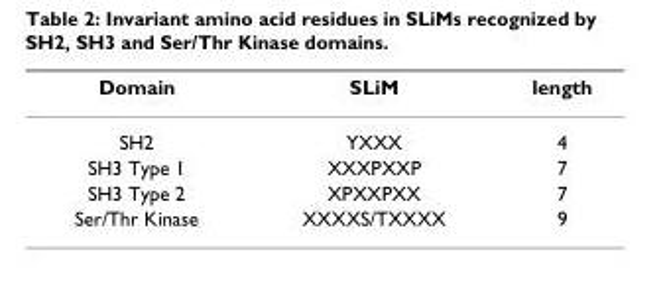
<table><thead><tr><td>Domain</td><td>SLiM</td><td>length</td></tr></thead><tbody><tr><td>SH2</td><td>YXXX</td><td>4</td></tr><tr><td>SH3 Type 1</td><td>XXXPXXP</td><td>7</td></tr><tr><td>SH3 Type 2</td><td>XPXXPXX</td><td>7</td></tr><tr><td>Ser/Thr Kinase</td><td>XXXXS/TXXXX</td><td>9</td></tr></tbody></table>